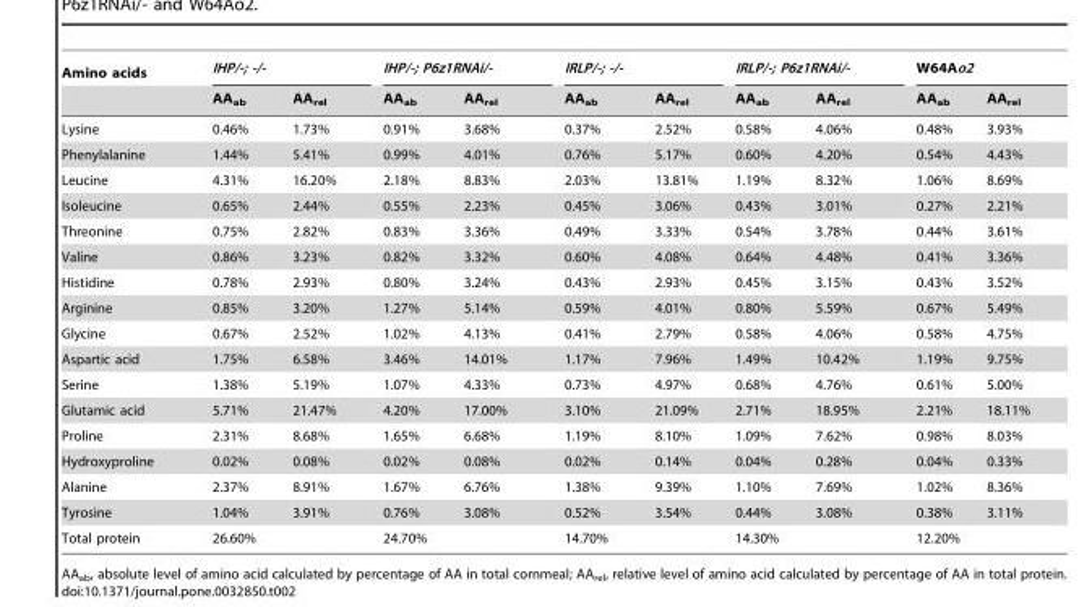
<table><thead><tr><td rowspan="2">Amino acids</td><td colspan="2">IHP/-; -/-</td><td colspan="2">IHP/-; P6z1RNAi/-</td><td colspan="2">IRLP/-; -/-</td><td colspan="2">IRLP/-; P6z1RNAi/-</td><td colspan="2">W64Ao2</td></tr><tr><td>AA<sub>ab</sub></td><td>AA<sub>rel</sub></td><td>AA<sub>ab</sub></td><td>AA<sub>rel</sub></td><td>AA<sub>ab</sub></td><td>AA<sub>rel</sub></td><td>AA<sub>ab</sub></td><td>AA<sub>rel</sub></td><td>AA<sub>ab</sub></td><td>AA<sub>rel</sub></td></tr></thead><tbody><tr><td>Lysine</td><td>0.46%</td><td>1.73%</td><td>0.91%</td><td>3.68%</td><td>0.37%</td><td>2.52%</td><td>0.58%</td><td>4.06%</td><td>0.48%</td><td>3.93%</td></tr><tr><td>Phenylalanine</td><td>1.44%</td><td>5.41%</td><td>0.99%</td><td>4.01%</td><td>0.76%</td><td>5.17%</td><td>0.60%</td><td>4.20%</td><td>0.54%</td><td>4.43%</td></tr><tr><td>Leucine</td><td>4.31%</td><td>16.20%</td><td>2.18%</td><td>8.83%</td><td>2.03%</td><td>13.81%</td><td>1.19%</td><td>8.32%</td><td>1.06%</td><td>8.69%</td></tr><tr><td>Isoleucine</td><td>0.65%</td><td>2.44%</td><td>0.55%</td><td>2.23%</td><td>0.45%</td><td>3.06%</td><td>0.43%</td><td>3.01%</td><td>0.27%</td><td>2.21%</td></tr><tr><td>Threonine</td><td>0.75%</td><td>2.82%</td><td>0.83%</td><td>3.36%</td><td>0.49%</td><td>3.33%</td><td>0.54%</td><td>3.78%</td><td>0.44%</td><td>3.61%</td></tr><tr><td>Valine</td><td>0.86%</td><td>3.23%</td><td>0.82%</td><td>3.32%</td><td>0.60%</td><td>4.08%</td><td>0.64%</td><td>4.48%</td><td>0.41%</td><td>3.36%</td></tr><tr><td>Histidine</td><td>0.78%</td><td>2.93%</td><td>0.80%</td><td>3.24%</td><td>0.43%</td><td>2.93%</td><td>0.45%</td><td>3.15%</td><td>0.43%</td><td>3.52%</td></tr><tr><td>Arginine</td><td>0.85%</td><td>3.20%</td><td>1.27%</td><td>5.14%</td><td>0.59%</td><td>4.01%</td><td>0.80%</td><td>5.59%</td><td>0.67%</td><td>5.49%</td></tr><tr><td>Glycine</td><td>0.67%</td><td>2.52%</td><td>1.02%</td><td>4.13%</td><td>0.41%</td><td>2.79%</td><td>0.58%</td><td>4.06%</td><td>0.58%</td><td>4.75%</td></tr><tr><td>Aspartic acid</td><td>1.75%</td><td>6.58%</td><td>3.46%</td><td>14.01%</td><td>1.17%</td><td>7.96%</td><td>1.49%</td><td>10.42%</td><td>1.19%</td><td>9.75%</td></tr><tr><td>Serine</td><td>1.38%</td><td>5.19%</td><td>1.07%</td><td>4.33%</td><td>0.73%</td><td>4.97%</td><td>0.68%</td><td>4.76%</td><td>0.61%</td><td>5.00%</td></tr><tr><td>Glutamic acid</td><td>5.71%</td><td>21.47%</td><td>4.20%</td><td>17.00%</td><td>3.10%</td><td>21.09%</td><td>2.71%</td><td>18.95%</td><td>2.21%</td><td>18.11%</td></tr><tr><td>Proline</td><td>2.31%</td><td>8.68%</td><td>1.65%</td><td>6.68%</td><td>1.19%</td><td>8.10%</td><td>1.09%</td><td>7.62%</td><td>0.98%</td><td>8.03%</td></tr><tr><td>Hydroxyproline</td><td>0.02%</td><td>0.08%</td><td>0.02%</td><td>0.08%</td><td>0.02%</td><td>0.14%</td><td>0.04%</td><td>0.28%</td><td>0.04%</td><td>0.33%</td></tr><tr><td>Alanine</td><td>2.37%</td><td>8.91%</td><td>1.67%</td><td>6.76%</td><td>1.38%</td><td>9.39%</td><td>1.10%</td><td>7.69%</td><td>1.02%</td><td>8.36%</td></tr><tr><td>Tyrosine</td><td>1.04%</td><td>3.91%</td><td>0.76%</td><td>3.08%</td><td>0.52%</td><td>3.54%</td><td>0.44%</td><td>3.08%</td><td>0.38%</td><td>3.11%</td></tr><tr><td>Total protein</td><td colspan="2">26.60%</td><td colspan="2">24.70%</td><td colspan="2">14.70%</td><td colspan="2">14.30%</td><td colspan="2">12.20%</td></tr></tbody></table>